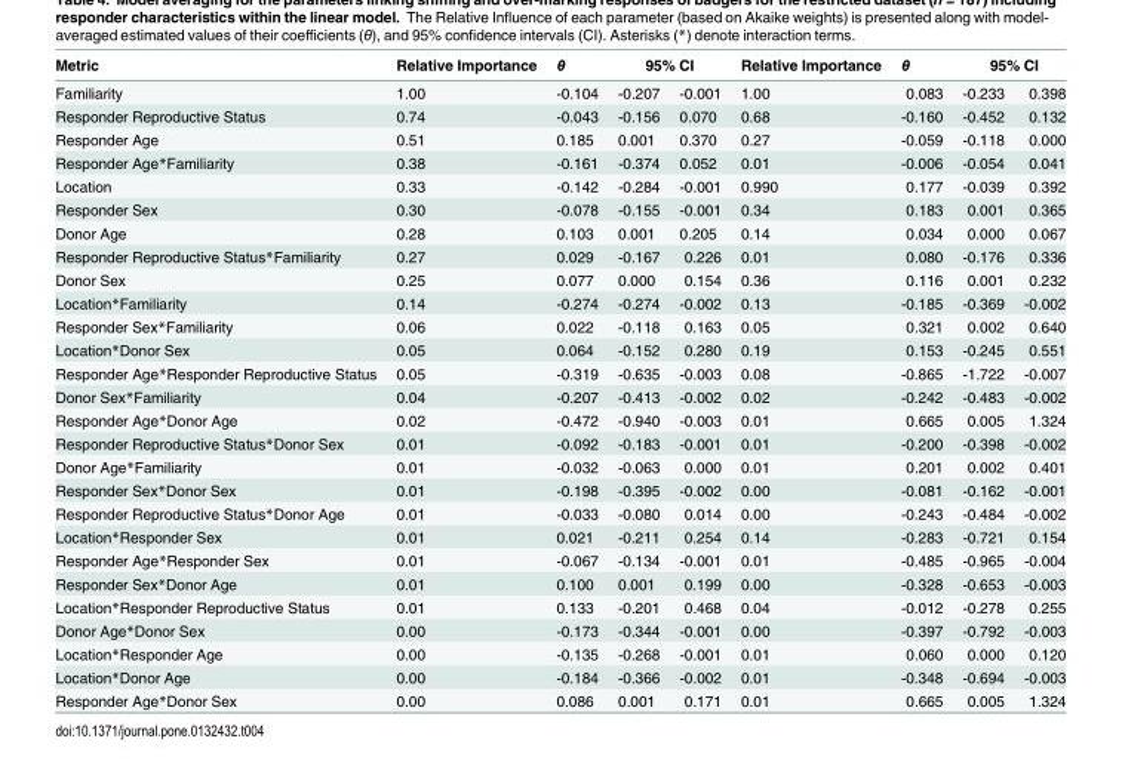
<table><thead><tr><td rowspan="2">Metric Familiarity</td><td rowspan="2">Relative Importance 1.00</td><td rowspan="2">θ -0.104</td><td colspan="2">95% CI</td><td rowspan="2">Relative Importance 1.00</td><td rowspan="2">θ 0.083</td><td colspan="2">95% CI</td></tr><tr><td>-0.207</td><td>-0.001</td><td>-0.233</td><td>0.398</td></tr></thead><tbody><tr><td>Responder Reproductive Status</td><td>0.74</td><td>-0.043</td><td>-0.156</td><td>0.070</td><td>0.68</td><td>-0.160</td><td>-0.452</td><td>0.132</td></tr><tr><td>Responder Age</td><td>0.51</td><td>0.185</td><td>0.001</td><td>0.370</td><td>0.27</td><td>-0.059</td><td>-0.118</td><td>0.000</td></tr><tr><td>Responder Age*Familiarity</td><td>0.38</td><td>-0.161</td><td>-0.374</td><td>0.052</td><td>0.01</td><td>-0.006</td><td>-0.054</td><td>0.041</td></tr><tr><td>Location</td><td>0.33</td><td>-0.142</td><td>-0.284</td><td>-0.001</td><td>0.990</td><td>0.177</td><td>-0.039</td><td>0.392</td></tr><tr><td>Responder Sex</td><td>0.30</td><td>-0.078</td><td>-0.155</td><td>-0.001</td><td>0.34</td><td>0.183</td><td>0.001</td><td>0.365</td></tr><tr><td>Donor Age</td><td>0.28</td><td>0.103</td><td>0.001</td><td>0.205</td><td>0.14</td><td>0.034</td><td>0.000</td><td>0.067</td></tr><tr><td>Responder Reproductive Status*Familiarity</td><td>0.27</td><td>0.029</td><td>-0.167</td><td>0.226</td><td>0.01</td><td>0.080</td><td>-0.176</td><td>0.336</td></tr><tr><td>Donor Sex</td><td>0.25</td><td>0.077</td><td>0.000</td><td>0.154</td><td>0.36</td><td>0.116</td><td>0.001</td><td>0.232</td></tr><tr><td>Location*Familiarity</td><td>0.14</td><td>-0.274</td><td>-0.274</td><td>-0.002</td><td>0.13</td><td>-0.185</td><td>-0.369</td><td>-0.002</td></tr><tr><td>Responder Sex*Familiarity</td><td>0.06</td><td>0.022</td><td>-0.118</td><td>0.163</td><td>0.05</td><td>0.321</td><td>0.002</td><td>0.640</td></tr><tr><td>Location*Donor Sex</td><td>0.05</td><td>0.064</td><td>-0.152</td><td>0.280</td><td>0.19</td><td>0.153</td><td>-0.245</td><td>0.551</td></tr><tr><td>Responder Age*Responder Reproductive Status</td><td>0.05</td><td>-0.319</td><td>-0.635</td><td>-0.003</td><td>0.08</td><td>-0.865</td><td>-1.722</td><td>-0.007</td></tr><tr><td>Donor Sex*Familiarity</td><td>0.04</td><td>-0.207</td><td>-0.413</td><td>-0.002</td><td>0.02</td><td>-0.242</td><td>-0.483</td><td>-0.002</td></tr><tr><td>Responder Age*Donor Age</td><td>0.02</td><td>-0.472</td><td>-0.940</td><td>-0.003</td><td>0.01</td><td>0.665</td><td>0.005</td><td>1.324</td></tr><tr><td>Responder Reproductive Status*Donor Sex</td><td>0.01</td><td>-0.092</td><td>-0.183</td><td>-0.001</td><td>0.01</td><td>-0.200</td><td>-0.398</td><td>-0.002</td></tr><tr><td>Donor Age*Familiarity</td><td>0.01</td><td>-0.032</td><td>-0.063</td><td>0.000</td><td>0.01</td><td>0.201</td><td>0.002</td><td>0.401</td></tr><tr><td>Responder Sex*Donor Sex</td><td>0.01</td><td>-0.198</td><td>-0.395</td><td>-0.002</td><td>0.00</td><td>-0.081</td><td>-0.162</td><td>-0.001</td></tr><tr><td>Responder Reproductive Status*Donor Age</td><td>0.01</td><td>-0.033</td><td>-0.080</td><td>0.014</td><td>0.00</td><td>-0.243</td><td>-0.484</td><td>-0.002</td></tr><tr><td>Location*Responder Sex</td><td>0.01</td><td>0.021</td><td>-0.211</td><td>0.254</td><td>0.14</td><td>-0.283</td><td>-0.721</td><td>0.154</td></tr><tr><td>Responder Age*Responder Sex</td><td>0.01</td><td>-0.067</td><td>-0.134</td><td>-0.001</td><td>0.01</td><td>-0.485</td><td>-0.965</td><td>-0.004</td></tr><tr><td>Responder Sex*Donor Age</td><td>0.01</td><td>0.100</td><td>0.001</td><td>0.199</td><td>0.00</td><td>-0.328</td><td>-0.653</td><td>-0.003</td></tr><tr><td>Location*Responder Reproductive Status</td><td>0.01</td><td>0.133</td><td>-0.201</td><td>0.468</td><td>0.04</td><td>-0.012</td><td>-0.278</td><td>0.255</td></tr><tr><td>Donor Age*Donor Sex</td><td>0.00</td><td>-0.173</td><td>-0.344</td><td>-0.001</td><td>0.00</td><td>-0.397</td><td>-0.792</td><td>-0.003</td></tr><tr><td>Location*Responder Age</td><td>0.00</td><td>-0.135</td><td>-0.268</td><td>-0.001</td><td>0.01</td><td>0.060</td><td>0.000</td><td>0.120</td></tr><tr><td>Location*Donor Age</td><td>0.00</td><td>-0.184</td><td>-0.366</td><td>-0.002</td><td>0.01</td><td>-0.348</td><td>-0.694</td><td>-0.003</td></tr><tr><td>Responder Age*Donor Sex</td><td>0.00</td><td>0.086</td><td>0.001</td><td>0.171</td><td>0.01</td><td>0.665</td><td>0.005</td><td>1.324</td></tr></tbody></table>